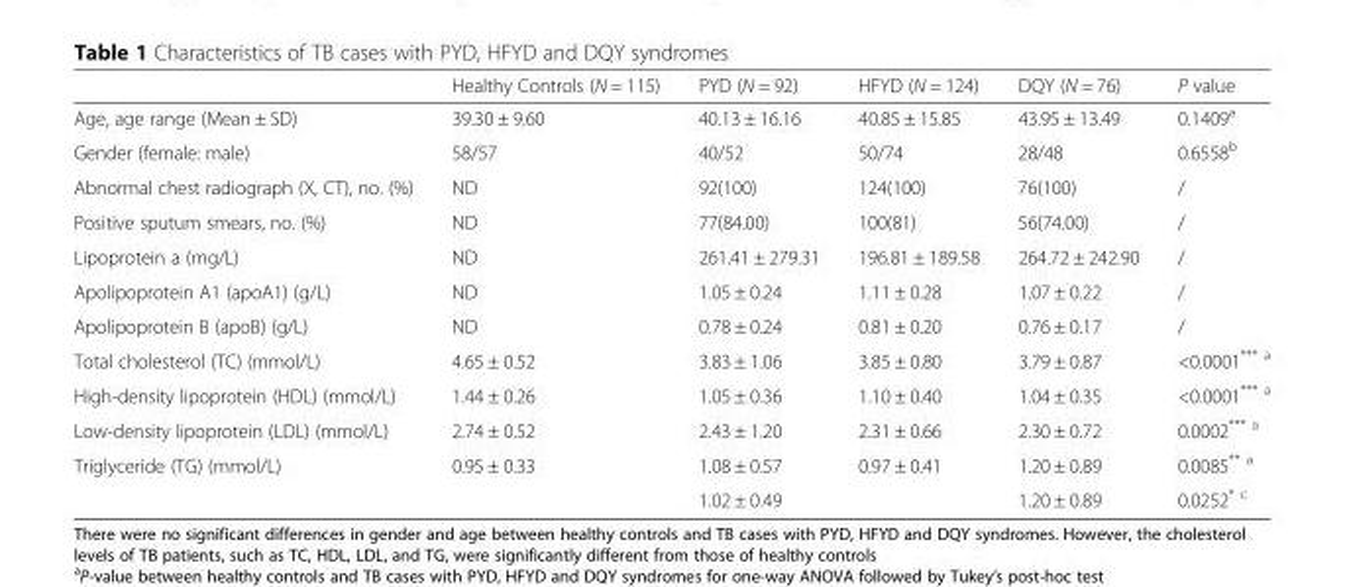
<table><thead><tr><td></td><td>Healthy Controls (N = 115)</td><td>PYD (N = 92)</td><td>HFYD (N = 124)</td><td>DQY (N = 76)</td><td>P value</td></tr></thead><tbody><tr><td>Age, age range (Mean ± SD)</td><td>39.30 ± 9.60</td><td>40.13 ± 16.16</td><td>40.85 ± 15.85</td><td>43.95 ± 13.49</td><td>0.1409<sup>a</sup></td></tr><tr><td>Gender (female: male)</td><td>58/57</td><td>40/52</td><td>50/74</td><td>28/48</td><td>0.6558<sup>b</sup></td></tr><tr><td>Abnormal chest radiograph (X, CT), no. (%)</td><td>ND</td><td>92(100)</td><td>124(100)</td><td>76(100)</td><td>/</td></tr><tr><td>Positive sputum smears, no. (%)</td><td>ND</td><td>77(84.00)</td><td>100(81)</td><td>56(74.00)</td><td>/</td></tr><tr><td>Lipoprotein a (mg/L)</td><td>ND</td><td>261.41 ± 279.31</td><td>196.81 ± 189.58</td><td>264.72 ± 242.90</td><td>/</td></tr><tr><td>Apolipoprotein A1 (apoA1) (g/L)</td><td>ND</td><td>1.05 ± 0.24</td><td>1.11 ± 0.28</td><td>1.07 ± 0.22</td><td>/</td></tr><tr><td>Apolipoprotein B (apoB) (g/L)</td><td>ND</td><td>0.78 ± 0.24</td><td>0.81 ± 0.20</td><td>0.76 ± 0.17</td><td>/</td></tr><tr><td>Total cholesterol (TC) (mmol/L)</td><td>4.65 ± 0.52</td><td>3.83 ± 1.06</td><td>3.85 ± 0.80</td><td>3.79 ± 0.87</td><td>&lt;0.0001<sup>*** a</sup></td></tr><tr><td>High-density lipoprotein (HDL) (mmol/L)</td><td>1.44 ± 0.26</td><td>1.05 ± 0.36</td><td>1.10 ± 0.40</td><td>1.04 ± 0.35</td><td>&lt;0.0001<sup>*** a</sup></td></tr><tr><td>Low-density lipoprotein (LDL) (mmol/L)</td><td>2.74 ± 0.52</td><td>2.43 ± 1.20</td><td>2.31 ± 0.66</td><td>2.30 ± 0.72</td><td>0.0002<sup>*** a</sup></td></tr><tr><td rowspan="2">Triglyceride (TG) (mmol/L)</td><td>0.95 ± 0.33</td><td>1.08 ± 0.57</td><td>0.97 ± 0.41</td><td>1.20 ± 0.89</td><td>0.0085<sup>** a</sup></td></tr><tr><td></td><td>1.02 ± 0.49</td><td></td><td>1.20 ± 0.89</td><td>0.0252<sup>* c</sup></td></tr></tbody></table>